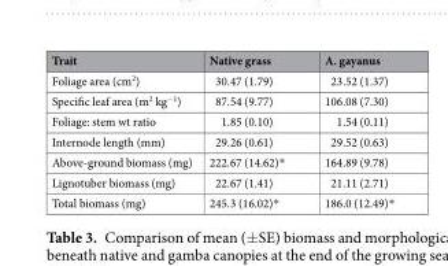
<table><thead><tr><td>Trait</td><td>Native grass</td><td>A. gayanus</td></tr></thead><tbody><tr><td>Foliage area (cm<sup>2</sup>)</td><td>30.47 (1.79)</td><td>23.52 (1.37)</td></tr><tr><td>Specific leaf area (m<sup>2</sup> kg<sup>−1</sup>)</td><td>87.54 (9.77)</td><td>106.08 (7.30)</td></tr><tr><td>Foliage: stem wt ratio</td><td>1.85 (0.10)</td><td>1.54 (0.11)</td></tr><tr><td>Internode length (mm)</td><td>29.26 (0.61)</td><td>29.52 (0.63)</td></tr><tr><td>Above-ground biomass (mg)</td><td>222.67 (14.62)*</td><td>164.89 (9.78)</td></tr><tr><td>Lignotuber biomass (mg)</td><td>22.67 (1.41)</td><td>21.11 (2.71)</td></tr><tr><td>Total biomass (mg)</td><td>245.3 (16.02)*</td><td>186.0 (12.49)*</td></tr></tbody></table>